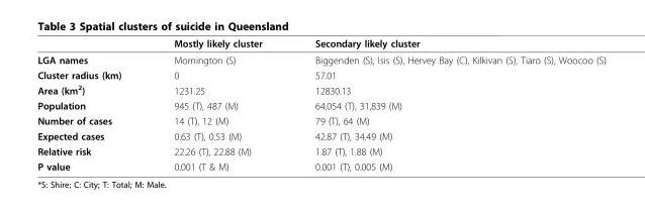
<table><thead><tr><td></td><td>Mostly likely cluster</td><td>Secondary likely cluster</td></tr></thead><tbody><tr><td>LGA names</td><td>Mornington (S)</td><td>Biggenden (S), Isis (S), Hervey Bay (C), Kilkivan (S), Tiaro (S), Woocoo (S)</td></tr><tr><td>Cluster radius (km)</td><td>0</td><td>57.01</td></tr><tr><td>Area (km<sup>2</sup>)</td><td>1231.25</td><td>12830.13</td></tr><tr><td>Population</td><td>945 (T), 487 (M)</td><td>64,054 (T), 31,839 (M)</td></tr><tr><td>Number of cases</td><td>14 (T), 12 (M)</td><td>79 (T), 64 (M)</td></tr><tr><td>Expected cases</td><td>0.63 (T), 0.53 (M)</td><td>42.87 (T), 34.49 (M)</td></tr><tr><td>Relative risk</td><td>22.26 (T), 22.88 (M)</td><td>1.87 (T), 1.88 (M)</td></tr><tr><td>P value</td><td>0.001 (T &amp; M)</td><td>0.001 (T), 0.005 (M)</td></tr></tbody></table>